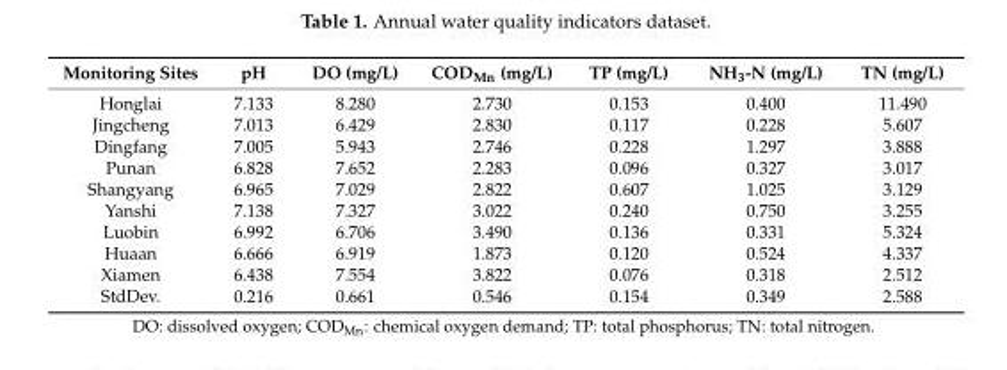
<table><thead><tr><td>Monitoring Sites</td><td>pH</td><td>DO (mg/L)</td><td>COD<sub>Mn</sub> (mg/L)</td><td>TP (mg/L)</td><td>NH<sub>3</sub>-N (mg/L)</td><td>TN (mg/L)</td></tr></thead><tbody><tr><td>Honglai</td><td>7.133</td><td>8.280</td><td>2.730</td><td>0.153</td><td>0.400</td><td>11.490</td></tr><tr><td>Jingcheng</td><td>7.013</td><td>6.429</td><td>2.830</td><td>0.117</td><td>0.228</td><td>5.607</td></tr><tr><td>Dingfang</td><td>7.005</td><td>5.943</td><td>2.746</td><td>0.228</td><td>1.297</td><td>3.888</td></tr><tr><td>Punan</td><td>6.828</td><td>7.652</td><td>2.283</td><td>0.096</td><td>0.327</td><td>3.017</td></tr><tr><td>Shangyang</td><td>6.965</td><td>7.029</td><td>2.822</td><td>0.607</td><td>1.025</td><td>3.129</td></tr><tr><td>Yanshi</td><td>7.138</td><td>7.327</td><td>3.022</td><td>0.240</td><td>0.750</td><td>3.255</td></tr><tr><td>Luobin</td><td>6.992</td><td>6.706</td><td>3.490</td><td>0.136</td><td>0.331</td><td>5.324</td></tr><tr><td>Huaan</td><td>6.666</td><td>6.919</td><td>1.873</td><td>0.120</td><td>0.524</td><td>4.337</td></tr><tr><td>Xiamen</td><td>6.438</td><td>7.554</td><td>3.822</td><td>0.076</td><td>0.318</td><td>2.512</td></tr><tr><td>StdDev.</td><td>0.216</td><td>0.661</td><td>0.546</td><td>0.154</td><td>0.349</td><td>2.588</td></tr></tbody></table>